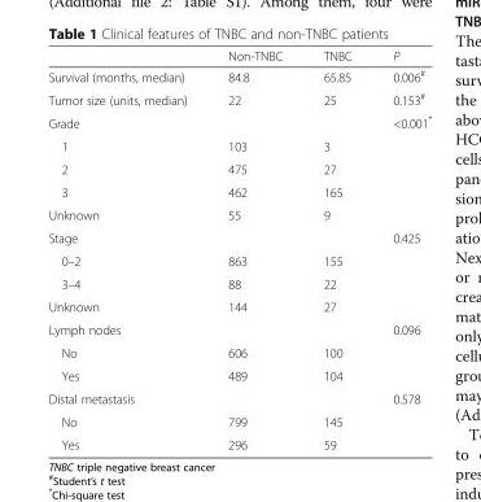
<table><thead><tr><td></td><td>Non-TNBC</td><td>TNBC</td><td>P</td></tr></thead><tbody><tr><td>Survival (months, median)</td><td>84.8</td><td>65.85</td><td>0.006<sup>#</sup></td></tr><tr><td>Tumor size (units, median)</td><td>22</td><td>25</td><td>0.153<sup>#</sup></td></tr><tr><td>Grade</td><td></td><td></td><td>&lt;0.001*</td></tr><tr><td>1</td><td>103</td><td>3</td><td rowspan="4"></td></tr><tr><td>2</td><td>475</td><td>27</td></tr><tr><td>3</td><td>462</td><td>165</td></tr><tr><td>Unknown</td><td>55</td><td>9</td></tr><tr><td>Stage</td><td></td><td></td><td>0.425</td></tr><tr><td>0–2</td><td>863</td><td>155</td><td rowspan="3"></td></tr><tr><td>3–4</td><td>88</td><td>22</td></tr><tr><td>Unknown</td><td>144</td><td>27</td></tr><tr><td>Lymph nodes</td><td></td><td></td><td>0.096</td></tr><tr><td>No</td><td>606</td><td>100</td><td rowspan="2"></td></tr><tr><td>Yes</td><td>489</td><td>104</td></tr><tr><td>Distal metastasis</td><td></td><td></td><td>0.578</td></tr><tr><td>No</td><td>799</td><td>145</td><td rowspan="2"></td></tr><tr><td>Yes</td><td>296</td><td>59</td></tr></tbody></table>